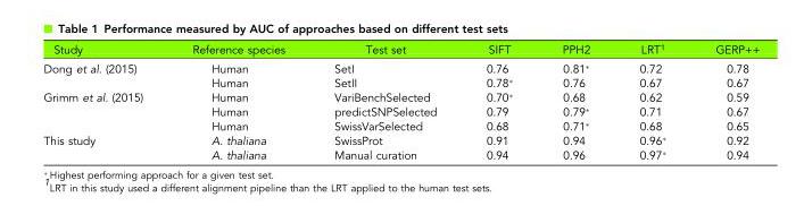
<table><thead><tr><td>Study</td><td>Reference species</td><td>Test set</td><td>SIFT</td><td>PPH2</td><td>LRT<sup>1</sup></td><td>GERP++</td></tr></thead><tbody><tr><td rowspan="2">Dong et al. (2015)</td><td>Human</td><td>SetI</td><td>0.76</td><td>0.81*</td><td>0.72</td><td>0.78</td></tr><tr><td>Human</td><td>SetII</td><td>0.78*</td><td>0.76</td><td>0.67</td><td>0.67</td></tr><tr><td rowspan="3">Grimm et al. (2015)</td><td>Human</td><td>VariBenchSelected</td><td>0.70*</td><td>0.68</td><td>0.62</td><td>0.59</td></tr><tr><td>Human</td><td>predictSNPSelected</td><td>0.79</td><td>0.79*</td><td>0.71</td><td>0.67</td></tr><tr><td>Human</td><td>SwissVarSelected</td><td>0.68</td><td>0.71*</td><td>0.68</td><td>0.65</td></tr><tr><td rowspan="2">This study</td><td>A. thaliana</td><td>SwissProt</td><td>0.91</td><td>0.94</td><td>0.96*</td><td>0.92</td></tr><tr><td>A. thaliana</td><td>Manual curation</td><td>0.94</td><td>0.96</td><td>0.97*</td><td>0.94</td></tr></tbody></table>